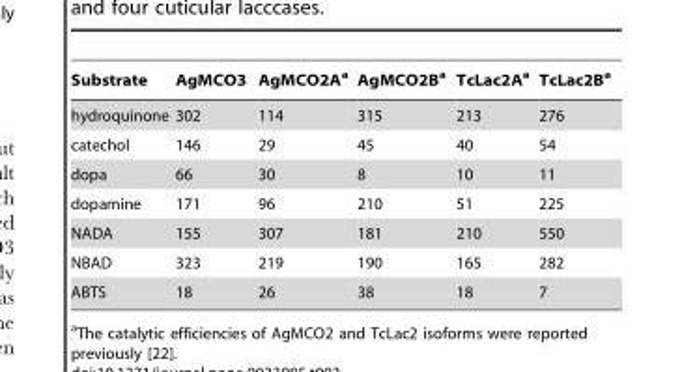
<table><thead><tr><td>Substrate</td><td>AgMCO3</td><td>AgMCO2A<sup>a</sup></td><td>AgMCO2B<sup>a</sup></td><td>TcLac2A<sup>a</sup></td><td>TcLac2B<sup>a</sup></td></tr></thead><tbody><tr><td>hydroquinone</td><td>302</td><td>114</td><td>315</td><td>213</td><td>276</td></tr><tr><td>catechol</td><td>146</td><td>29</td><td>45</td><td>40</td><td>54</td></tr><tr><td>dopa</td><td>66</td><td>30</td><td>8</td><td>10</td><td>11</td></tr><tr><td>dopamine</td><td>171</td><td>96</td><td>210</td><td>51</td><td>225</td></tr><tr><td>NADA</td><td>155</td><td>307</td><td>181</td><td>210</td><td>550</td></tr><tr><td>NBAD</td><td>323</td><td>219</td><td>190</td><td>165</td><td>282</td></tr><tr><td>ABTS</td><td>18</td><td>26</td><td>38</td><td>18</td><td>7</td></tr></tbody></table>